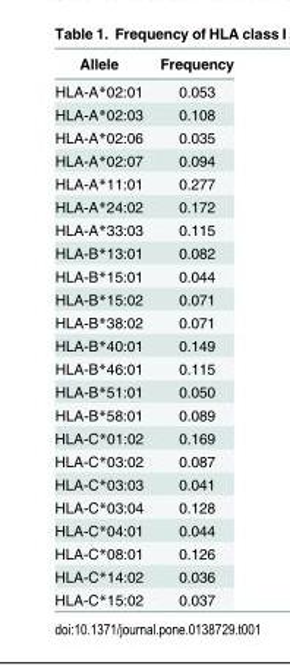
<table><thead><tr><td>Allele</td><td>Frequency</td></tr></thead><tbody><tr><td>HLA-A*02:01</td><td>0.053</td></tr><tr><td>HLA-A*02:03</td><td>0.108</td></tr><tr><td>HLA-A*02:06</td><td>0.035</td></tr><tr><td>HLA-A*02:07</td><td>0.094</td></tr><tr><td>HLA-A*11:01</td><td>0.277</td></tr><tr><td>HLA-A*24:02</td><td>0.172</td></tr><tr><td>HLA-A*33:03</td><td>0.115</td></tr><tr><td>HLA-B*13:01</td><td>0.082</td></tr><tr><td>HLA-B*15:01</td><td>0.044</td></tr><tr><td>HLA-B*15:02</td><td>0.071</td></tr><tr><td>HLA-B*38:02</td><td>0.071</td></tr><tr><td>HLA-B*40:01</td><td>0.149</td></tr><tr><td>HLA-B*46:01</td><td>0.115</td></tr><tr><td>HLA-B*51:01</td><td>0.050</td></tr><tr><td>HLA-B*58:01</td><td>0.089</td></tr><tr><td>HLA-C*01:02</td><td>0.169</td></tr><tr><td>HLA-C*03:02</td><td>0.087</td></tr><tr><td>HLA-C*03:03</td><td>0.041</td></tr><tr><td>HLA-C*03:04</td><td>0.128</td></tr><tr><td>HLA-C*04:01</td><td>0.044</td></tr><tr><td>HLA-C*08:01</td><td>0.126</td></tr><tr><td>HLA-C*14:02</td><td>0.036</td></tr><tr><td>HLA-C*15:02</td><td>0.037</td></tr></tbody></table>